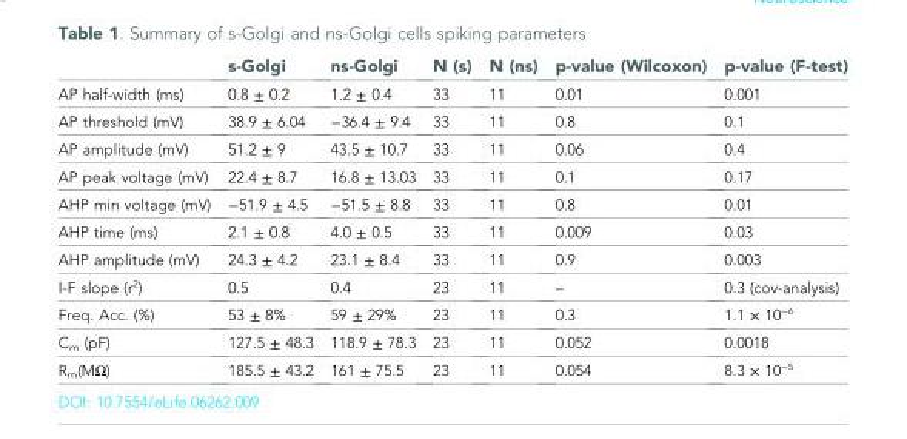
<table><thead><tr><td></td><td>s-Golgi</td><td>ns-Golgi</td><td>N (s)</td><td>N (ns)</td><td>p-value (Wilcoxon)</td><td>p-value (F-test)</td></tr></thead><tbody><tr><td>AP half-width (ms)</td><td>0.8 ± 0.2</td><td>1.2 ± 0.4</td><td>33</td><td>11</td><td>0.01</td><td>0.001</td></tr><tr><td>AP threshold (mV)</td><td>38.9 ± 6.04</td><td>−36.4 ± 9.4</td><td>33</td><td>11</td><td>0.8</td><td>0.1</td></tr><tr><td>AP amplitude (mV)</td><td>51.2 ± 9</td><td>43.5 ± 10.7</td><td>33</td><td>11</td><td>0.06</td><td>0.4</td></tr><tr><td>AP peak voltage (mV)</td><td>22.4 ± 8.7</td><td>16.8 ± 13.03</td><td>33</td><td>11</td><td>0.1</td><td>0.17</td></tr><tr><td>AHP min voltage (mV)</td><td>−51.9 ± 4.5</td><td>−51.5 ± 8.8</td><td>33</td><td>11</td><td>0.8</td><td>0.01</td></tr><tr><td>AHP time (ms)</td><td>2.1 ± 0.8</td><td>4.0 ± 0.5</td><td>33</td><td>11</td><td>0.009</td><td>0.03</td></tr><tr><td>AHP amplitude (mV)</td><td>24.3 ± 4.2</td><td>23.1 ± 8.4</td><td>33</td><td>11</td><td>0.9</td><td>0.003</td></tr><tr><td>I-F slope (r<sup>2</sup>)</td><td>0.5</td><td>0.4</td><td>23</td><td>11</td><td>–</td><td>0.3 (cov-analysis)</td></tr><tr><td>Freq. Acc. (%)</td><td>53 ± 8%</td><td>59 ± 29%</td><td>23</td><td>11</td><td>0.3</td><td>1.1 × 10<sup>−6</sup></td></tr><tr><td>C<sub>m</sub> (pF)</td><td>127.5 ± 48.3</td><td>118.9 ± 78.3</td><td>23</td><td>11</td><td>0.052</td><td>0.0018</td></tr><tr><td>R<sub>m</sub>(MΩ)</td><td>185.5 ± 43.2</td><td>161 ± 75.5</td><td>23</td><td>11</td><td>0.054</td><td>8.3 × 10<sup>−5</sup></td></tr></tbody></table>